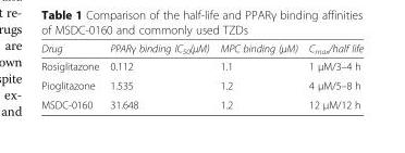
<table><thead><tr><td>Drug</td><td>PPARγ binding IC<sub>50</sub>(μM)</td><td>MPC binding (μM)</td><td>C<sub>max</sub>/half life</td></tr></thead><tbody><tr><td>Rosiglitazone</td><td>0.112</td><td>1.1</td><td>1 µM/3–4 h</td></tr><tr><td>Pioglitazone</td><td>1.535</td><td>1.2</td><td>4 µM/5–8 h</td></tr><tr><td>MSDC-0160</td><td>31.648</td><td>1.2</td><td>12 µM/12 h</td></tr></tbody></table>